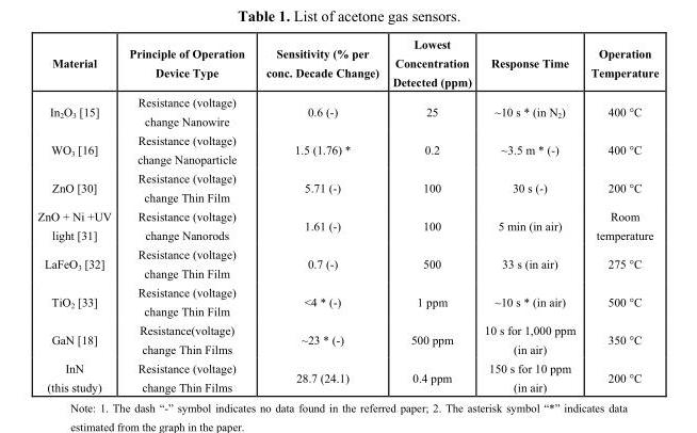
<table><thead><tr><td>Material</td><td>Principle of Operation Device Type</td><td>Sensitivity (% per conc. Decade Change)</td><td>Lowest Concentration Detected (ppm)</td><td>Response Time</td><td>Operation Temperature</td></tr></thead><tbody><tr><td>In<sub>2</sub>O<sub>3</sub> [15]</td><td>Resistance (voltage) change Nanowire</td><td>0.6 (-)</td><td>25</td><td>~10 s * (in N2)</td><td>400 °C</td></tr><tr><td>WO<sub>3</sub> [16]</td><td>Resistance (voltage) change Nanoparticle</td><td>1.5 (1.76) *</td><td>0.2</td><td>~3.5 m * (-)</td><td>400 °C</td></tr><tr><td>ZnO [30]</td><td>Resistance (voltage) change Thin Film</td><td>5.71 (-)</td><td>100</td><td>30 s (-)</td><td>200 °C</td></tr><tr><td>ZnO + Ni +UV light [31]</td><td>Resistance (voltage) change Nanorods</td><td>1.61 (-)</td><td>100</td><td>5 min (in air)</td><td>Room temperature</td></tr><tr><td>LaFeO<sub>3</sub> [32]</td><td>Resistance (voltage) change Thin Film</td><td>0.7 (-)</td><td>500</td><td>33 s (in air)</td><td>275 °C</td></tr><tr><td>TiO<sub>2</sub> [33]</td><td>Resistance (voltage) change Thin Film</td><td>&lt;4 * (-)</td><td>1 ppm</td><td>~10 s * (in air)</td><td>500 °C</td></tr><tr><td>GaN [18]</td><td>Resistance(voltage) change Thin Films</td><td>~23 * (-)</td><td>500 ppm</td><td>10 s for 1,000 ppm (in air)</td><td>350 °C</td></tr><tr><td>InN (this study)</td><td>Resistance (voltage) change Thin Films</td><td>28.7 (24.1)</td><td>0.4 ppm</td><td>150 s for 10 ppm (in air)</td><td>200 °C</td></tr></tbody></table>